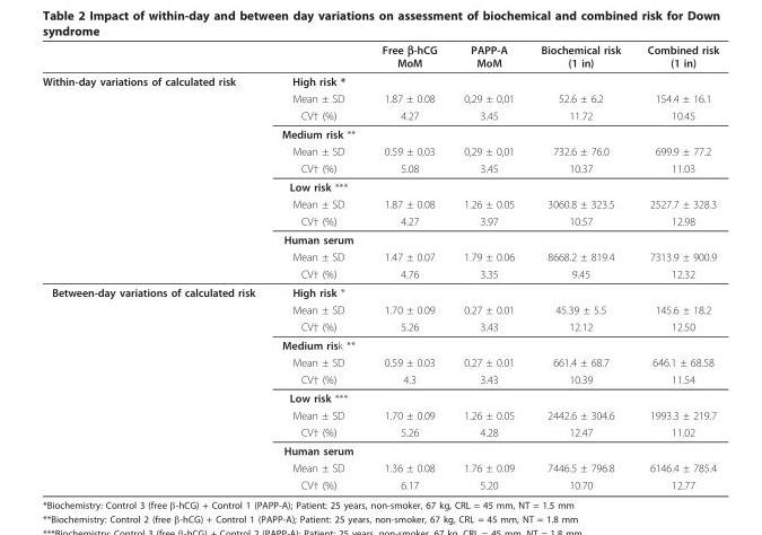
<table><thead><tr><td></td><td></td><td>Free β-hCG MoM</td><td>PAPP-A MoM</td><td>Biochemical risk (1 in)</td><td>Combined risk (1 in)</td></tr></thead><tbody><tr><td rowspan="12">Within-day variations of calculated risk</td><td>High risk *</td><td></td><td></td><td></td><td></td></tr><tr><td>Mean ± SD</td><td>1.87 ± 0.08</td><td>0,29 ± 0,01</td><td>52.6 ± 6.2</td><td>154.4 ± 16.1</td></tr><tr><td>CV† (%)</td><td>4.27</td><td>3.45</td><td>11.72</td><td>10.45</td></tr><tr><td>Medium risk **</td><td></td><td></td><td></td><td></td></tr><tr><td>Mean ± SD</td><td>0.59 ± 0,03</td><td>0,29 ± 0,01</td><td>732.6 ± 76.0</td><td>699.9 ± 77.2</td></tr><tr><td>CV† (%)</td><td>5.08</td><td>3.45</td><td>10.37</td><td>11.03</td></tr><tr><td>Low risk ***</td><td></td><td></td><td></td><td></td></tr><tr><td>Mean ± SD</td><td>1.87 ± 0.08</td><td>1.26 ± 0.05</td><td>3060.8 ± 323.5</td><td>2527.7 ± 328.3</td></tr><tr><td>CV† (%)</td><td>4.27</td><td>3.97</td><td>10.57</td><td>12.98</td></tr><tr><td>Human serum</td><td></td><td></td><td></td><td></td></tr><tr><td>Mean ± SD</td><td>1.47 ± 0.07</td><td>1.79 ± 0.06</td><td>8668.2 ± 819.4</td><td>7313.9 ± 900.9</td></tr><tr><td>CV† (%)</td><td>4.76</td><td>3.35</td><td>9.45</td><td>12.32</td></tr><tr><td rowspan="12">Between-day variations of calculated risk</td><td>High risk *</td><td></td><td></td><td></td><td></td></tr><tr><td>Mean ± SD</td><td>1.70 ± 0.09</td><td>0.27 ± 0.01</td><td>45.39 ± 5.5</td><td>145.6 ± 18.2</td></tr><tr><td>CV† (%)</td><td>5.26</td><td>3.43</td><td>12.12</td><td>12.50</td></tr><tr><td>Medium risk **</td><td></td><td></td><td></td><td></td></tr><tr><td>Mean ± SD</td><td>0.59 ± 0.03</td><td>0.27 ± 0.01</td><td>661.4 ± 68.7</td><td>646.1 ± 68.58</td></tr><tr><td>CV† (%)</td><td>4.3</td><td>3.43</td><td>10.39</td><td>11.54</td></tr><tr><td>Low risk ***</td><td></td><td></td><td></td><td></td></tr><tr><td>Mean ± SD</td><td>1.70 ± 0.09</td><td>1.26 ± 0.05</td><td>2442.6 ± 304.6</td><td>1993.3 ± 219.7</td></tr><tr><td>CV† (%)</td><td>5.26</td><td>4.28</td><td>12.47</td><td>11.02</td></tr><tr><td>Human serum</td><td></td><td></td><td></td><td></td></tr><tr><td>Mean ± SD</td><td>1.36 ± 0.08</td><td>1.76 ± 0.09</td><td>7446.5 ± 796.8</td><td>6146.4 ± 785.4</td></tr><tr><td>CV† (%)</td><td>6.17</td><td>5.20</td><td>10.70</td><td>12.77</td></tr></tbody></table>